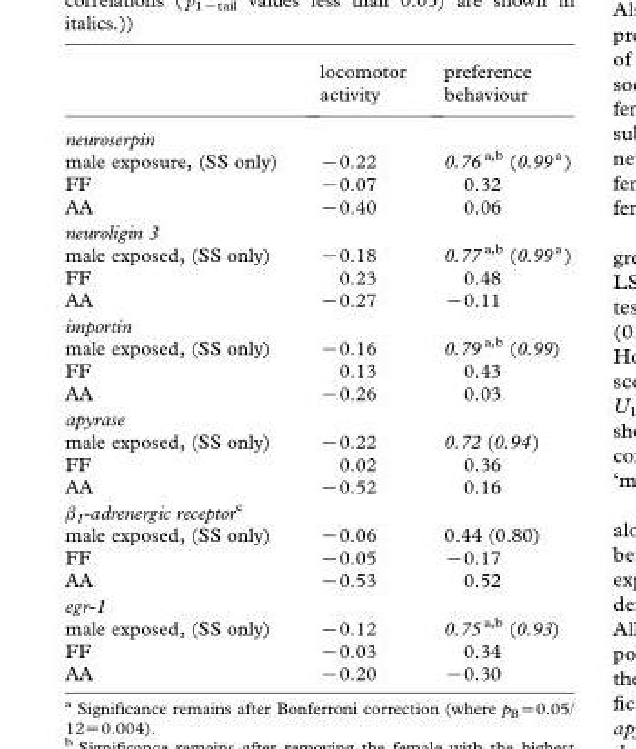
<table><thead><tr><td></td><td>locomotor activity</td><td>preference behaviour</td></tr></thead><tbody><tr><td colspan="3">neuroserpin</td></tr><tr><td>male exposure, (SS only)</td><td>−0.22</td><td>0.76 a,b (0.99 a)</td></tr><tr><td>FF</td><td>−0.07</td><td>0.32</td></tr><tr><td>AA</td><td>−0.40</td><td>0.06</td></tr><tr><td colspan="3">neuroligin 3</td></tr><tr><td>male exposed, (SS only)</td><td>−0.18</td><td>0.77 a,b (0.99 a)</td></tr><tr><td>FF</td><td>0.23</td><td>0.48</td></tr><tr><td>AA</td><td>−0.27</td><td>−0.11</td></tr><tr><td colspan="3">importin</td></tr><tr><td>male exposed, (SS only)</td><td>−0.16</td><td>0.79 a,b (0.99)</td></tr><tr><td>FF</td><td>0.13</td><td>0.43</td></tr><tr><td>AA</td><td>−0.26</td><td>0.03</td></tr><tr><td colspan="3">apyrase</td></tr><tr><td>male exposed, (SS only)</td><td>−0.22</td><td>0.72 (0.94)</td></tr><tr><td>FF</td><td>0.02</td><td>0.36</td></tr><tr><td>AA</td><td>−0.52</td><td>0.16</td></tr><tr><td colspan="3">β1-adrenergic receptorc</td></tr><tr><td>male exposed, (SS only)</td><td>−0.06</td><td>0.44 (0.80)</td></tr><tr><td>FF</td><td>−0.05</td><td>−0.17</td></tr><tr><td>AA</td><td>−0.53</td><td>0.52</td></tr><tr><td colspan="3">egr-1</td></tr><tr><td>male exposed, (SS only)</td><td>−0.12</td><td>0.75 a,b (0.93)</td></tr><tr><td>FF</td><td>−0.03</td><td>0.34</td></tr><tr><td>AA</td><td>−0.20</td><td>−0.30</td></tr></tbody></table>